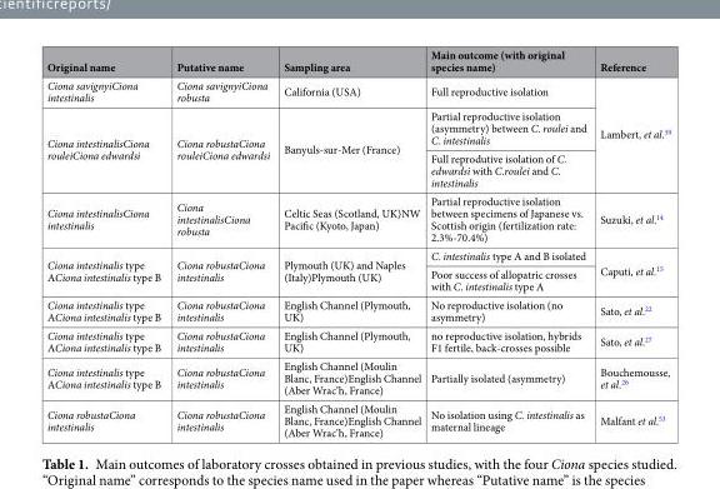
<table><thead><tr><td>Original name</td><td>Putative name</td><td>Sampling area</td><td>Main outcome (with original species name)</td><td>Reference</td></tr></thead><tbody><tr><td>Ciona savignyiCiona intestinalis</td><td>Ciona savignyiCiona robusta</td><td>California (USA)</td><td>Full reproductive isolation</td><td rowspan="3">Lambert, et al.<sup>30</sup></td></tr><tr><td rowspan="2">Ciona intestinalisCiona rouleiCiona edwardsi</td><td rowspan="2">Ciona robustaCiona rouleiCiona edwardsi</td><td rowspan="2">Banyuls-sur-Mer (France)</td><td>Partial reproductive isolation (asymmetry) between C. roulei and C. intestinalis</td></tr><tr><td>Full reprodutive isolation of C. edwardsi with C.roulei and C. intestinalis</td></tr><tr><td>Ciona intestinalisCiona intestinalis</td><td>Ciona intestinalisCiona robusta</td><td>Celtic Seas (Scotland, UK)NW Pacific (Kyoto, Japan)</td><td>Partial reproductive isolation between specimens of Japanese vs. Scottish origin (fertilization rate: 2.3%-70.4%)</td><td>Suzuki, et al.<sup>14</sup></td></tr><tr><td rowspan="2">Ciona intestinalis type ACiona intestinalis type B</td><td rowspan="2">Ciona robustaCiona intestinalis</td><td rowspan="2">Plymouth (UK) and Naples (Italy)Plymouth (UK)</td><td>C. intestinalis type A and B isolated</td><td rowspan="2">Caputi, et al.<sup>15</sup></td></tr><tr><td>Poor success of allopatric crosses with C. intestinalis type A</td></tr><tr><td>Ciona intestinalis type ACiona intestinalis type B</td><td>Ciona robustaCiona intestinalis</td><td>English Channel (Plymouth, UK)</td><td>No reproductive isolation (no asymmetry)</td><td>Sato, et al.<sup>22</sup></td></tr><tr><td>Ciona intestinalis type ACiona intestinalis type B</td><td>Ciona robustaCiona intestinalis</td><td>English Channel (Plymouth, UK)</td><td>no reproductive isolation, hybrids F1 fertile, back-crosses possible</td><td>Sato, et al.<sup>27</sup></td></tr><tr><td>Ciona intestinalis type ACiona intestinalis type B</td><td>Ciona robustaCiona intestinalis</td><td>English Channel (Moulin Blanc, France)English Channel (Aber Wrac’h, France)</td><td>Partially isolated (asymmetry)</td><td>Bouchemousse, et al.<sup>26</sup></td></tr><tr><td>Ciona robustaCiona intestinalis</td><td>Ciona robustaCiona intestinalis</td><td>English Channel (Moulin Blanc, France)English Channel (Aber Wrac’h, France)</td><td>No isolation using C. intestinalis as maternal lineage</td><td>Malfant et al.<sup>53</sup></td></tr></tbody></table>